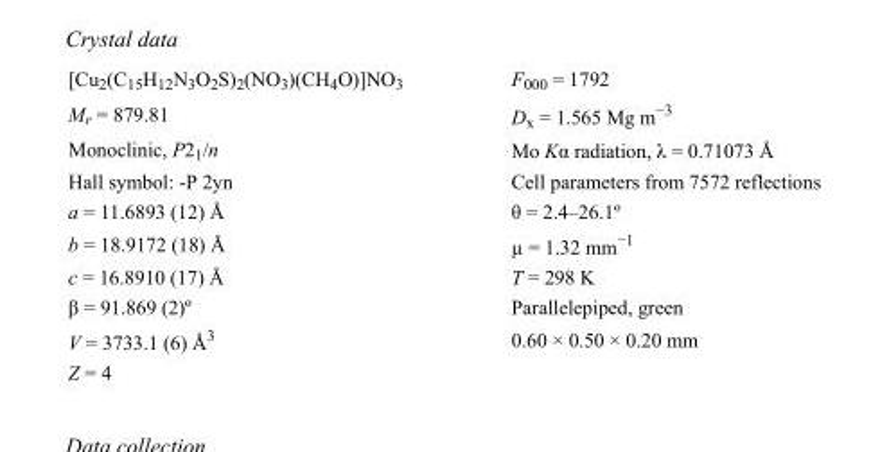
<table><tbody><tr><td>[Cu<sub>2</sub>(C<sub>15</sub>H<sub>12</sub>N<sub>3</sub>O<sub>2</sub>S)<sub>2</sub>(NO<sub>3</sub>)(CH<sub>4</sub>O)]NO<sub>3</sub></td><td>F000 = 1792</td></tr><tr><td>M<sub>r</sub> = 879.81</td><td>D<sub>x</sub> = 1.565 Mg m<sup>−3</sup></td></tr><tr><td>Monoclinic, P2<sub>1</sub>/n</td><td>Mo Kα radiation, λ = 0.71073 Å</td></tr><tr><td>Hall symbol: -P 2yn</td><td>Cell parameters from 7572 reflections</td></tr><tr><td>a = 11.6893 (12) Å</td><td>θ = 2.4–26.1º</td></tr><tr><td>b = 18.9172 (18) Å</td><td>µ = 1.32 mm<sup>−1</sup></td></tr><tr><td>c = 16.8910 (17) Å</td><td>T = 298 K</td></tr><tr><td>β = 91.869 (2)º</td><td>Parallelepiped, green</td></tr><tr><td>V = 3733.1 (6) Å<sup>3</sup></td><td>0.60 × 0.50 × 0.20 mm</td></tr><tr><td>Z = 4</td><td></td></tr></tbody></table>